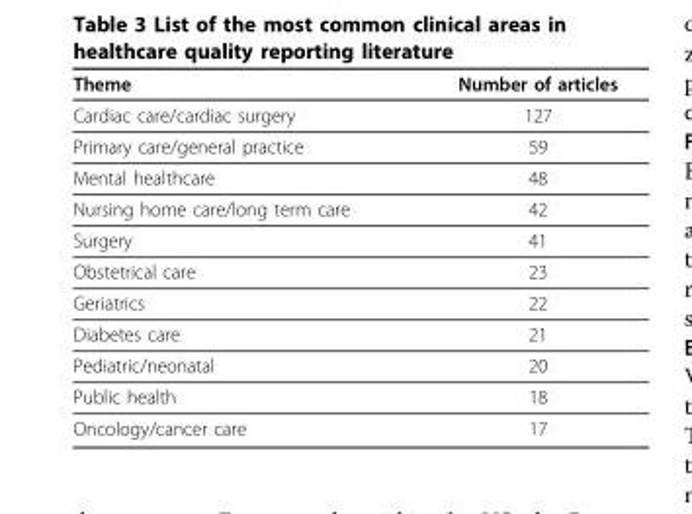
<table><thead><tr><td>Theme</td><td>Number of articles</td></tr></thead><tbody><tr><td>Cardiac care/cardiac surgery</td><td>127</td></tr><tr><td>Primary care/general practice</td><td>59</td></tr><tr><td>Mental healthcare</td><td>48</td></tr><tr><td>Nursing home care/long term care</td><td>42</td></tr><tr><td>Surgery</td><td>41</td></tr><tr><td>Obstetrical care</td><td>23</td></tr><tr><td>Geriatrics</td><td>22</td></tr><tr><td>Diabetes care</td><td>21</td></tr><tr><td>Pediatric/neonatal</td><td>20</td></tr><tr><td>Public health</td><td>18</td></tr><tr><td>Oncology/cancer care</td><td>17</td></tr></tbody></table>